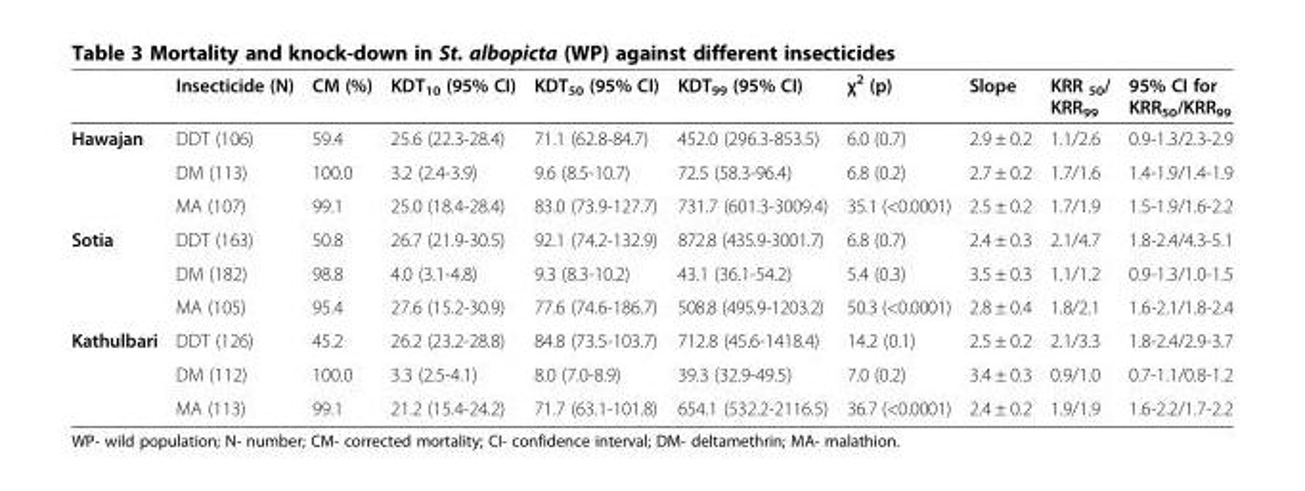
<table><thead><tr><td></td><td>Insecticide (N)</td><td>CM (%)</td><td>KDT<sub>10</sub> (95% CI)</td><td>KDT<sub>50</sub> (95% CI)</td><td>KDT<sub>99</sub> (95% CI)</td><td>χ<sup>2</sup> (p)</td><td>Slope</td><td>KRR <sub>50</sub>/ KRR<sub>99</sub></td><td>95% CI for KRR<sub>50</sub>/KRR<sub>99</sub></td></tr></thead><tbody><tr><td rowspan="3">Hawajan</td><td>DDT (106)</td><td>59.4</td><td>25.6 (22.3-28.4)</td><td>71.1 (62.8-84.7)</td><td>452.0 (296.3-853.5)</td><td>6.0 (0.7)</td><td>2.9 ± 0.2</td><td>1.1/2.6</td><td>0.9-1.3/2.3-2.9</td></tr><tr><td>DM (113)</td><td>100.0</td><td>3.2 (2.4-3.9)</td><td>9.6 (8.5-10.7)</td><td>72.5 (58.3-96.4)</td><td>6.8 (0.2)</td><td>2.7 ± 0.2</td><td>1.7/1.6</td><td>1.4-1.9/1.4-1.9</td></tr><tr><td>MA (107)</td><td>99.1</td><td>25.0 (18.4-28.4)</td><td>83.0 (73.9-127.7)</td><td>731.7 (601.3-3009.4)</td><td>35.1 (&lt;0.0001)</td><td>2.5 ± 0.2</td><td>1.7/1.9</td><td>1.5-1.9/1.6-2.2</td></tr><tr><td rowspan="3">Sotia</td><td>DDT (163)</td><td>50.8</td><td>26.7 (21.9-30.5)</td><td>92.1 (74.2-132.9)</td><td>872.8 (435.9-3001.7)</td><td>6.8 (0.7)</td><td>2.4 ± 0.3</td><td>2.1/4.7</td><td>1.8-2.4/4.3-5.1</td></tr><tr><td>DM (182)</td><td>98.8</td><td>4.0 (3.1-4.8)</td><td>9.3 (8.3-10.2)</td><td>43.1 (36.1-54.2)</td><td>5.4 (0.3)</td><td>3.5 ± 0.3</td><td>1.1/1.2</td><td>0.9-1.3/1.0-1.5</td></tr><tr><td>MA (105)</td><td>95.4</td><td>27.6 (15.2-30.9)</td><td>77.6 (74.6-186.7)</td><td>508.8 (495.9-1203.2)</td><td>50.3 (&lt;0.0001)</td><td>2.8 ± 0.4</td><td>1.8/2.1</td><td>1.6-2.1/1.8-2.4</td></tr><tr><td rowspan="3">Kathulbari</td><td>DDT (126)</td><td>45.2</td><td>26.2 (23.2-28.8)</td><td>84.8 (73.5-103.7)</td><td>712.8 (45.6-1418.4)</td><td>14.2 (0.1)</td><td>2.5 ± 0.2</td><td>2.1/3.3</td><td>1.8-2.4/2.9-3.7</td></tr><tr><td>DM (112)</td><td>100.0</td><td>3.3 (2.5-4.1)</td><td>8.0 (7.0-8.9)</td><td>39.3 (32.9-49.5)</td><td>7.0 (0.2)</td><td>3.4 ± 0.3</td><td>0.9/1.0</td><td>0.7-1.1/0.8-1.2</td></tr><tr><td>MA (113)</td><td>99.1</td><td>21.2 (15.4-24.2)</td><td>71.7 (63.1-101.8)</td><td>654.1 (532.2-2116.5)</td><td>36.7 (&lt;0.0001)</td><td>2.4 ± 0.2</td><td>1.9/1.9</td><td>1.6-2.2/1.7-2.2</td></tr></tbody></table>